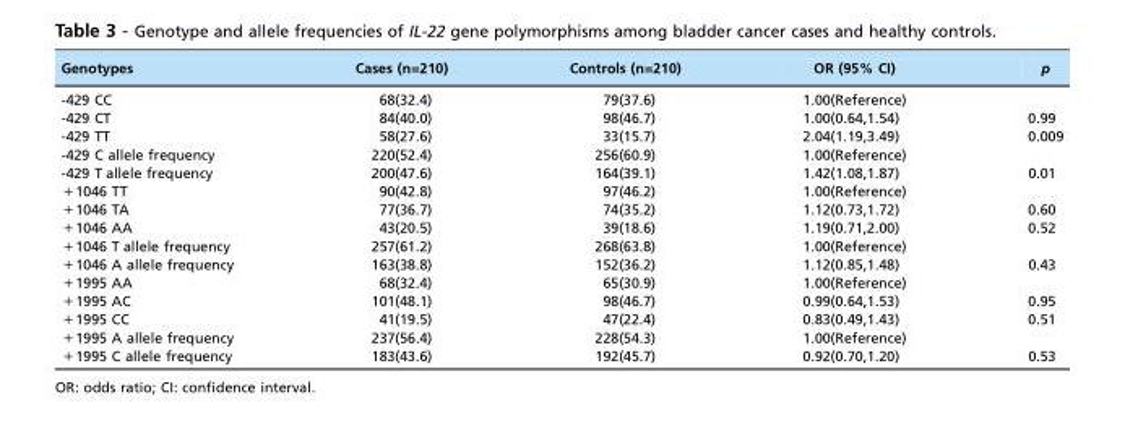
<table><thead><tr><td>Genotypes</td><td>Cases (n=210)</td><td>Controls (n=210)</td><td>OR (95% CI)</td><td>p</td></tr></thead><tbody><tr><td>-429 CC</td><td>68(32.4)</td><td>79(37.6)</td><td>1.00(Reference)</td><td></td></tr><tr><td>-429 CT</td><td>84(40.0)</td><td>98(46.7)</td><td>1.00(0.64,1.54)</td><td>0.99</td></tr><tr><td>-429 TT</td><td>58(27.6)</td><td>33(15.7)</td><td>2.04(1.19,3.49)</td><td>0.009</td></tr><tr><td>-429 C allele frequency</td><td>220(52.4)</td><td>256(60.9)</td><td>1.00(Reference)</td><td></td></tr><tr><td>-429 T allele frequency</td><td>200(47.6)</td><td>164(39.1)</td><td>1.42(1.08,1.87)</td><td>0.01</td></tr><tr><td>+1046 TT</td><td>90(42.8)</td><td>97(46.2)</td><td>1.00(Reference)</td><td></td></tr><tr><td>+1046 TA</td><td>77(36.7)</td><td>74(35.2)</td><td>1.12(0.73,1.72)</td><td>0.60</td></tr><tr><td>+1046 AA</td><td>43(20.5)</td><td>39(18.6)</td><td>1.19(0.71,2.00)</td><td>0.52</td></tr><tr><td>+1046 T allele frequency</td><td>257(61.2)</td><td>268(63.8)</td><td>1.00(Reference)</td><td></td></tr><tr><td>+1046 A allele frequency</td><td>163(38.8)</td><td>152(36.2)</td><td>1.12(0.85,1.48)</td><td>0.43</td></tr><tr><td>+1995 AA</td><td>68(32.4)</td><td>65(30.9)</td><td>1.00(Reference)</td><td></td></tr><tr><td>+1995 AC</td><td>101(48.1)</td><td>98(46.7)</td><td>0.99(0.64,1.53)</td><td>0.95</td></tr><tr><td>+1995 CC</td><td>41(19.5)</td><td>47(22.4)</td><td>0.83(0.49,1.43)</td><td>0.51</td></tr><tr><td>+1995 A allele frequency</td><td>237(56.4)</td><td>228(54.3)</td><td>1.00(Reference)</td><td></td></tr><tr><td>+1995 C allele frequency</td><td>183(43.6)</td><td>192(45.7)</td><td>0.92(0.70,1.20)</td><td>0.53</td></tr></tbody></table>